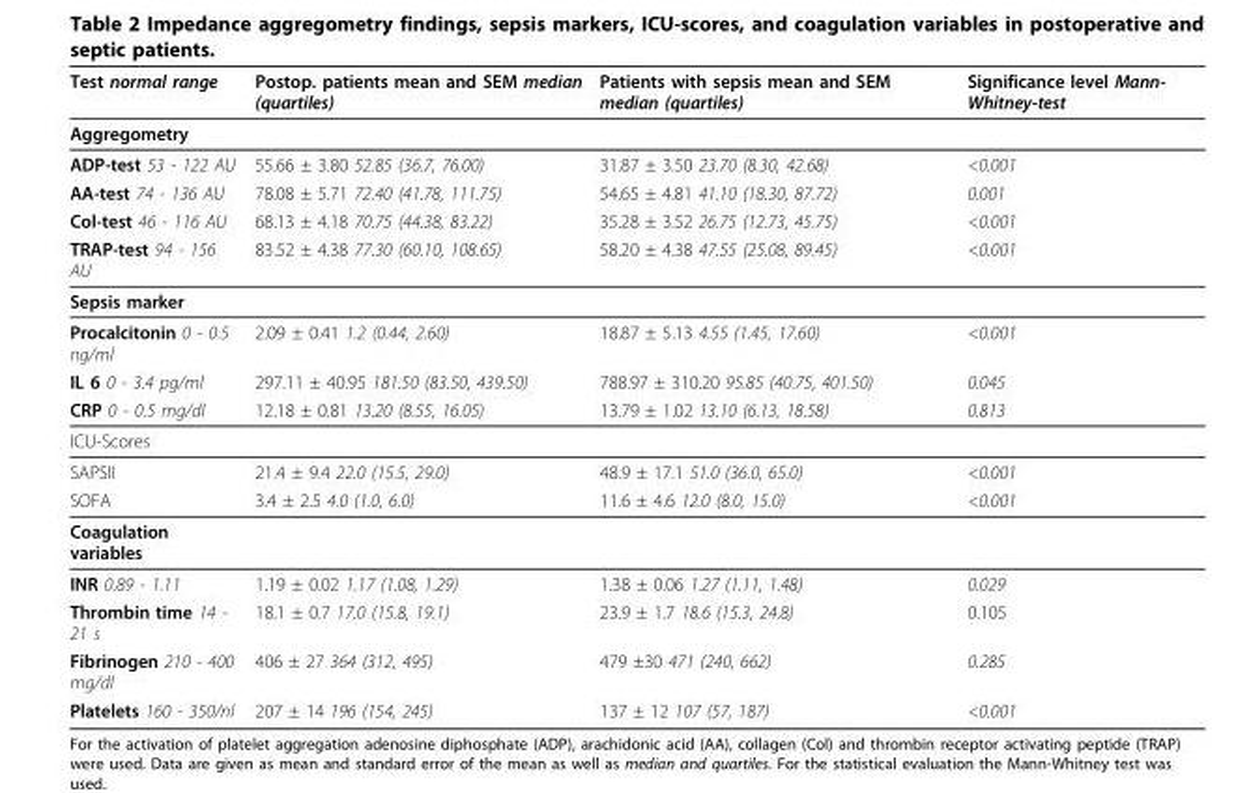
<table><thead><tr><td>Test normal range</td><td>Postop. patients mean and SEM median (quartiles)</td><td>Patients with sepsis mean and SEM median (quartiles)</td><td>Significance level Mann- Whitney-test</td></tr></thead><tbody><tr><td colspan="4">Aggregometry</td></tr><tr><td>ADP-test 53 - 122 AU</td><td>55.66 ± 3.80 52.85 (36.7, 76.00)</td><td>31.87 ± 3.50 23.70 (8.30, 42.68)</td><td>&lt;0.001</td></tr><tr><td>AA-test 74 - 136 AU</td><td>78.08 ± 5.71 72.40 (41.78, 111.75)</td><td>54.65 ± 4.81 41.10 (18.30, 87.72)</td><td>0.001</td></tr><tr><td>Col-test 46 - 116 AU</td><td>68.13 ± 4.18 70.75 (44.38, 83.22)</td><td>35.28 ± 3.52 26.75 (12.73, 45.75)</td><td>&lt;0.001</td></tr><tr><td>TRAP-test 94 - 156 AU</td><td>83.52 ± 4.38 77.30 (60.10, 108.65)</td><td>58.20 ± 4.38 47.55 (25.08, 89.45)</td><td>&lt;0.001</td></tr><tr><td colspan="4">Sepsis marker</td></tr><tr><td>Procalcitonin 0 - 0.5 ng/ml</td><td>2.09 ± 0.41 1.2 (0.44, 2.60)</td><td>18.87 ± 5.13 4.55 (1.45, 17.60)</td><td>&lt;0.001</td></tr><tr><td>IL 6 0 - 3.4 pg/ml</td><td>297.11 ± 40.95 181.50 (83.50, 439.50)</td><td>788.97 ± 310.20 95.85 (40.75, 401.50)</td><td>0.045</td></tr><tr><td>CRP 0 - 0.5 mg/dl</td><td>12.18 ± 0.81 13.20 (8.55, 16.05)</td><td>13.79 ± 1.02 13.10 (6.13, 18.58)</td><td>0.813</td></tr><tr><td colspan="4">ICU-Scores</td></tr><tr><td>SAPSII</td><td>21.4 ± 9.4 22.0 (15.5, 29.0)</td><td>48.9 ± 17.1 51.0 (36.0, 65.0)</td><td>&lt;0.001</td></tr><tr><td>SOFA</td><td>3.4 ± 2.5 4.0 (1.0, 6.0)</td><td>11.6 ± 4.6 12.0 (8.0, 15.0)</td><td>&lt;0.001</td></tr><tr><td colspan="4">Coagulation variables</td></tr><tr><td>INR 0.89 - 1.11</td><td>1.19 ± 0.02 1.17 (1.08, 1.29)</td><td>1.38 ± 0.06 1.27 (1.11, 1.48)</td><td>0.029</td></tr><tr><td>Thrombin time 14 - 21 s</td><td>18.1 ± 0.7 17.0 (15.8, 19.1)</td><td>23.9 ± 1.7 18.6 (15.3, 24.8)</td><td>0.105</td></tr><tr><td>Fibrinogen 210 - 400 mg/dl</td><td>406 ± 27 364 (312, 495)</td><td>479 ±30 471 (240, 662)</td><td>0.285</td></tr><tr><td>Platelets 160 - 350/nl</td><td>207 ± 14 196 (154, 245)</td><td>137 ± 12 107 (57, 187)</td><td>&lt;0.001</td></tr></tbody></table>